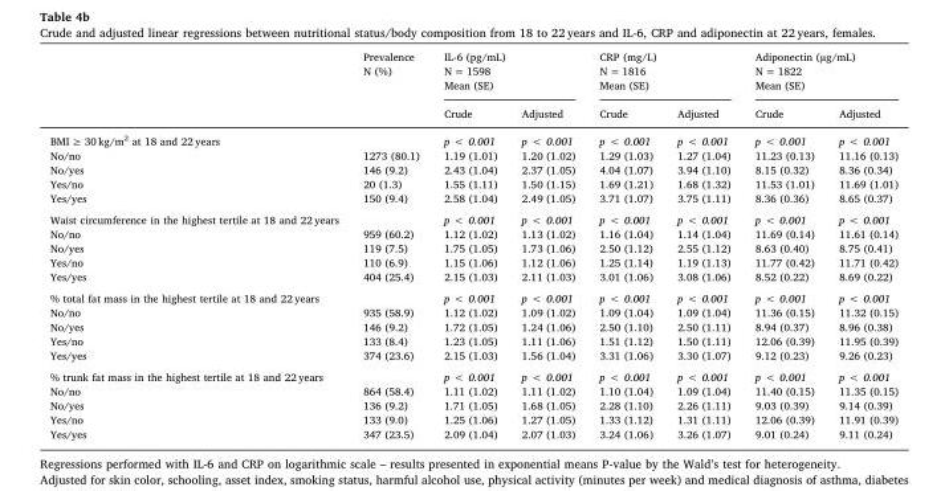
<table><thead><tr><td rowspan="2"></td><td rowspan="2">Prevalence N (%)</td><td colspan="2">IL-6 (pg/mL) N = 1598 Mean (SE)</td><td colspan="2">CRP (mg/L) N = 1816 Mean (SE)</td><td colspan="2">Adiponectin (µg/mL) N = 1822 Mean (SE)</td></tr><tr><td>Crude</td><td>Adjusted</td><td>Crude</td><td>Adjusted</td><td>Crude</td><td>Adjusted</td></tr></thead><tbody><tr><td>BMI ≥ 30 kg/m<sup>2</sup> at 18 and 22 years</td><td></td><td>p &lt; 0.001</td><td>p &lt; 0.001</td><td>p &lt; 0.001</td><td>p &lt; 0.001</td><td>p &lt; 0.001</td><td>p &lt; 0.001</td></tr><tr><td>No/no</td><td>1273 (80.1)</td><td>1.19 (1.01)</td><td>1.20 (1.02)</td><td>1.29 (1.03)</td><td>1.27 (1.04)</td><td>11.23 (0.13)</td><td>11.16 (0.13)</td></tr><tr><td>No/yes</td><td>146 (9.2)</td><td>2.43 (1.04)</td><td>2.37 (1.05)</td><td>4.04 (1.07)</td><td>3.94 (1.10)</td><td>8.15 (0.32)</td><td>8.36 (0.34)</td></tr><tr><td>Yes/no</td><td>20 (1.3)</td><td>1.55 (1.11)</td><td>1.50 (1.15)</td><td>1.69 (1.21)</td><td>1.68 (1.32)</td><td>11.53 (1.01)</td><td>11.69 (1.01)</td></tr><tr><td>Yes/yes</td><td>150 (9.4)</td><td>2.58 (1.04)</td><td>2.49 (1.05)</td><td>3.71 (1.07)</td><td>3.75 (1.11)</td><td>8.36 (0.36)</td><td>8.65 (0.37)</td></tr><tr><td>Waist circumference in the highest tertile at 18 and 22 years</td><td></td><td>p &lt; 0.001</td><td>p &lt; 0.001</td><td>p &lt; 0.001</td><td>p &lt; 0.001</td><td>p &lt; 0.001</td><td>p &lt; 0.001</td></tr><tr><td>No/no</td><td>959 (60.2)</td><td>1.12 (1.02)</td><td>1.13 (1.02)</td><td>1.16 (1.04)</td><td>1.14 (1.04)</td><td>11.69 (0.14)</td><td>11.61 (0.14)</td></tr><tr><td>No/yes</td><td>119 (7.5)</td><td>1.75 (1.05)</td><td>1.73 (1.06)</td><td>2.50 (1.12)</td><td>2.55 (1.12)</td><td>8.63 (0.40)</td><td>8.75 (0.41)</td></tr><tr><td>Yes/no</td><td>110 (6.9)</td><td>1.15 (1.06)</td><td>1.12 (1.06)</td><td>1.25 (1.14)</td><td>1.19 (1.13)</td><td>11.77 (0.42)</td><td>11.71 (0.42)</td></tr><tr><td>Yes/yes</td><td>404 (25.4)</td><td>2.15 (1.03)</td><td>2.11 (1.03)</td><td>3.01 (1.06)</td><td>3.08 (1.06)</td><td>8.52 (0.22)</td><td>8.69 (0.22)</td></tr><tr><td>% total fat mass in the highest tertile at 18 and 22 years</td><td></td><td>p &lt; 0.001</td><td>p &lt; 0.001</td><td>p &lt; 0.001</td><td>p &lt; 0.001</td><td>p &lt; 0.001</td><td>p &lt; 0.001</td></tr><tr><td>No/no</td><td>935 (58.9)</td><td>1.12 (1.02)</td><td>1.09 (1.02)</td><td>1.09 (1.04)</td><td>1.09 (1.04)</td><td>11.36 (0.15)</td><td>11.32 (0.15)</td></tr><tr><td>No/yes</td><td>146 (9.2)</td><td>1.72 (1.05)</td><td>1.24 (1.06)</td><td>2.50 (1.10)</td><td>2.50 (1.11)</td><td>8.94 (0.37)</td><td>8.96 (0.38)</td></tr><tr><td>Yes/no</td><td>133 (8.4)</td><td>1.23 (1.05)</td><td>1.11 (1.06)</td><td>1.51 (1.12)</td><td>1.50 (1.11)</td><td>12.06 (0.39)</td><td>11.95 (0.39)</td></tr><tr><td>Yes/yes</td><td>374 (23.6)</td><td>2.15 (1.03)</td><td>1.56 (1.04)</td><td>3.31 (1.06)</td><td>3.30 (1.07)</td><td>9.12 (0.23)</td><td>9.26 (0.23)</td></tr><tr><td>% trunk fat mass in the highest tertile at 18 and 22 years</td><td></td><td>p &lt; 0.001</td><td>p &lt; 0.001</td><td>p &lt; 0.001</td><td>p &lt; 0.001</td><td>p &lt; 0.001</td><td>p &lt; 0.001</td></tr><tr><td>No/no</td><td>864 (58.4)</td><td>1.11 (1.02)</td><td>1.11 (1.02)</td><td>1.10 (1.04)</td><td>1.09 (1.04)</td><td>11.40 (0.15)</td><td>11.35 (0.15)</td></tr><tr><td>No/yes</td><td>136 (9.2)</td><td>1.71 (1.05)</td><td>1.68 (1.05)</td><td>2.28 (1.10)</td><td>2.26 (1.11)</td><td>9.03 (0.39)</td><td>9.14 (0.39)</td></tr><tr><td>Yes/no</td><td>133 (9.0)</td><td>1.25 (1.06)</td><td>1.27 (1.05)</td><td>1.33 (1.12)</td><td>1.31 (1.11)</td><td>12.06 (0.39)</td><td>11.91 (0.39)</td></tr><tr><td>Yes/yes</td><td>347 (23.5)</td><td>2.09 (1.04)</td><td>2.07 (1.03)</td><td>3.24 (1.06)</td><td>3.26 (1.07)</td><td>9.01 (0.24)</td><td>9.11 (0.24)</td></tr></tbody></table>